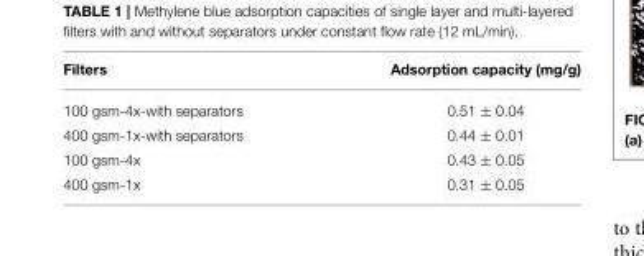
<table><thead><tr><td>Filters</td><td>Adsorption capacity (mg/g)</td></tr></thead><tbody><tr><td>100 gsm-4x-with separators</td><td>0.51 ± 0.04</td></tr><tr><td>400 gsm-1x-with separators</td><td>0.44 ± 0.01</td></tr><tr><td>100 gsm-4x</td><td>0.43 ± 0.05</td></tr><tr><td>400 gsm-1x</td><td>0.31 ± 0.05</td></tr></tbody></table>